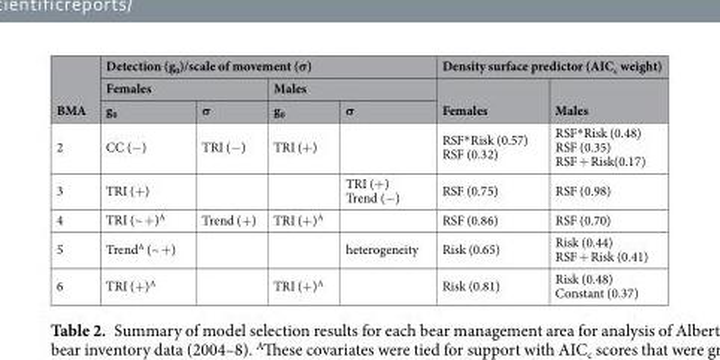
<table><thead><tr><td rowspan="3">BMA</td><td colspan="4">Detection (g<sub>0</sub>)/scale of movement (σ)</td><td colspan="2">Density surface predictor (AIC<sub>c</sub> weight)</td></tr><tr><td colspan="2">Females</td><td colspan="2">Males</td><td rowspan="2">Females</td><td rowspan="2">Males</td></tr><tr><td>g<sub>0</sub></td><td>σ</td><td>g<sub>0</sub></td><td>σ</td></tr></thead><tbody><tr><td>2</td><td>CC (−)</td><td>TRI (−)</td><td>TRI (+)</td><td></td><td>RSF*Risk (0.57) RSF (0.32)</td><td>RSF*Risk (0.48) RSF (0.35) RSF + Risk(0.17)</td></tr><tr><td>3</td><td>TRI (+)</td><td></td><td></td><td>TRI (+) Trend (−)</td><td>RSF (0.75)</td><td>RSF (0.98)</td></tr><tr><td>4</td><td>TRI (~ +)<sup>A</sup></td><td>Trend (+)</td><td>TRI (+)<sup>A</sup></td><td></td><td>RSF (0.86)</td><td>RSF (0.70)</td></tr><tr><td>5</td><td>Trend<sup>A</sup> (~ +)</td><td></td><td></td><td>heterogeneity</td><td>Risk (0.65)</td><td>Risk (0.44) RSF + Risk (0.41)</td></tr><tr><td>6</td><td>TRI (+)<sup>A</sup></td><td></td><td>TRI (+)<sup>A</sup></td><td></td><td>Risk (0.81)</td><td>Risk (0.48) Constant (0.37)</td></tr></tbody></table>